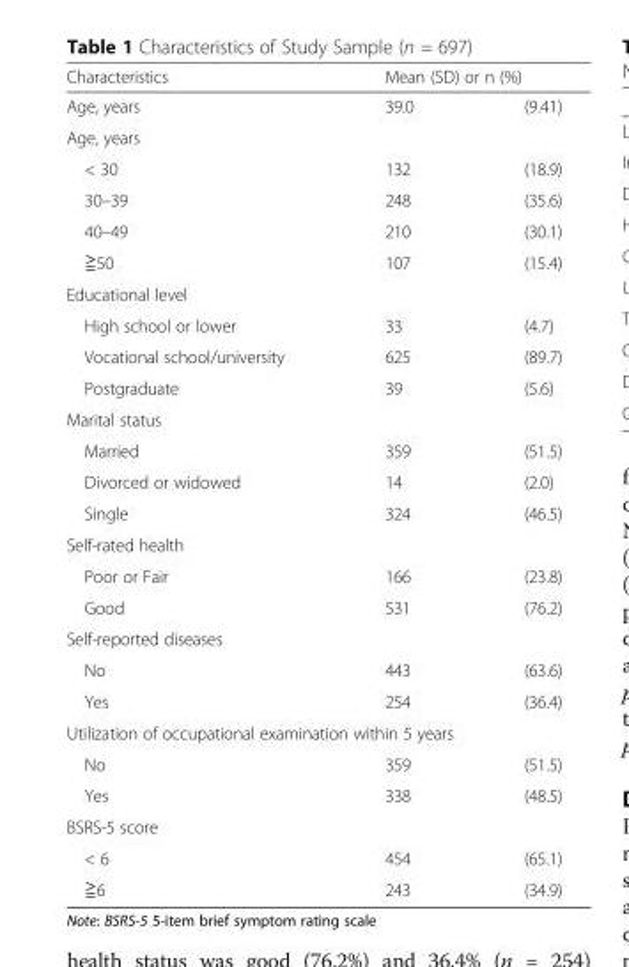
<table><thead><tr><td rowspan="2">Characteristics Age, years</td><td colspan="2">Mean (SD) or n (%)</td></tr><tr><td>39.0</td><td>(9.41)</td></tr></thead><tbody><tr><td colspan="3">Age, years</td></tr><tr><td>&lt; 30</td><td>132</td><td>(18.9)</td></tr><tr><td>30–39</td><td>248</td><td>(35.6)</td></tr><tr><td>40–49</td><td>210</td><td>(30.1)</td></tr><tr><td>≧50</td><td>107</td><td>(15.4)</td></tr><tr><td colspan="3">Educational level</td></tr><tr><td>High school or lower</td><td>33</td><td>(4.7)</td></tr><tr><td>Vocational school/university</td><td>625</td><td>(89.7)</td></tr><tr><td>Postgraduate</td><td>39</td><td>(5.6)</td></tr><tr><td colspan="3">Marital status</td></tr><tr><td>Married</td><td>359</td><td>(51.5)</td></tr><tr><td>Divorced or widowed</td><td>14</td><td>(2.0)</td></tr><tr><td>Single</td><td>324</td><td>(46.5)</td></tr><tr><td colspan="3">Self-rated health</td></tr><tr><td>Poor or Fair</td><td>166</td><td>(23.8)</td></tr><tr><td>Good</td><td>531</td><td>(76.2)</td></tr><tr><td colspan="3">Self-reported diseases</td></tr><tr><td>No</td><td>443</td><td>(63.6)</td></tr><tr><td>Yes</td><td>254</td><td>(36.4)</td></tr><tr><td colspan="3">Utilization of occupational examination within 5 years</td></tr><tr><td>No</td><td>359</td><td>(51.5)</td></tr><tr><td>Yes</td><td>338</td><td>(48.5)</td></tr><tr><td colspan="3">BSRS-5 score</td></tr><tr><td>&lt; 6</td><td>454</td><td>(65.1)</td></tr><tr><td>≧6</td><td>243</td><td>(34.9)</td></tr></tbody></table>